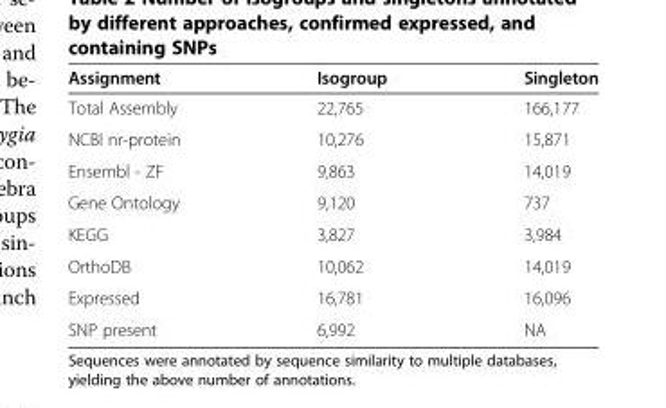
<table><thead><tr><td>Assignment</td><td>Isogroup</td><td>Singleton</td></tr></thead><tbody><tr><td>Total Assembly</td><td>22,765</td><td>166,177</td></tr><tr><td>NCBI nr-protein</td><td>10,276</td><td>15,871</td></tr><tr><td>Ensembl - ZF</td><td>9,863</td><td>14,019</td></tr><tr><td>Gene Ontology</td><td>9,120</td><td>737</td></tr><tr><td>KEGG</td><td>3,827</td><td>3,984</td></tr><tr><td>OrthoDB</td><td>10,062</td><td>14,019</td></tr><tr><td>Expressed</td><td>16,781</td><td>16,096</td></tr><tr><td>SNP present</td><td>6,992</td><td>NA</td></tr></tbody></table>